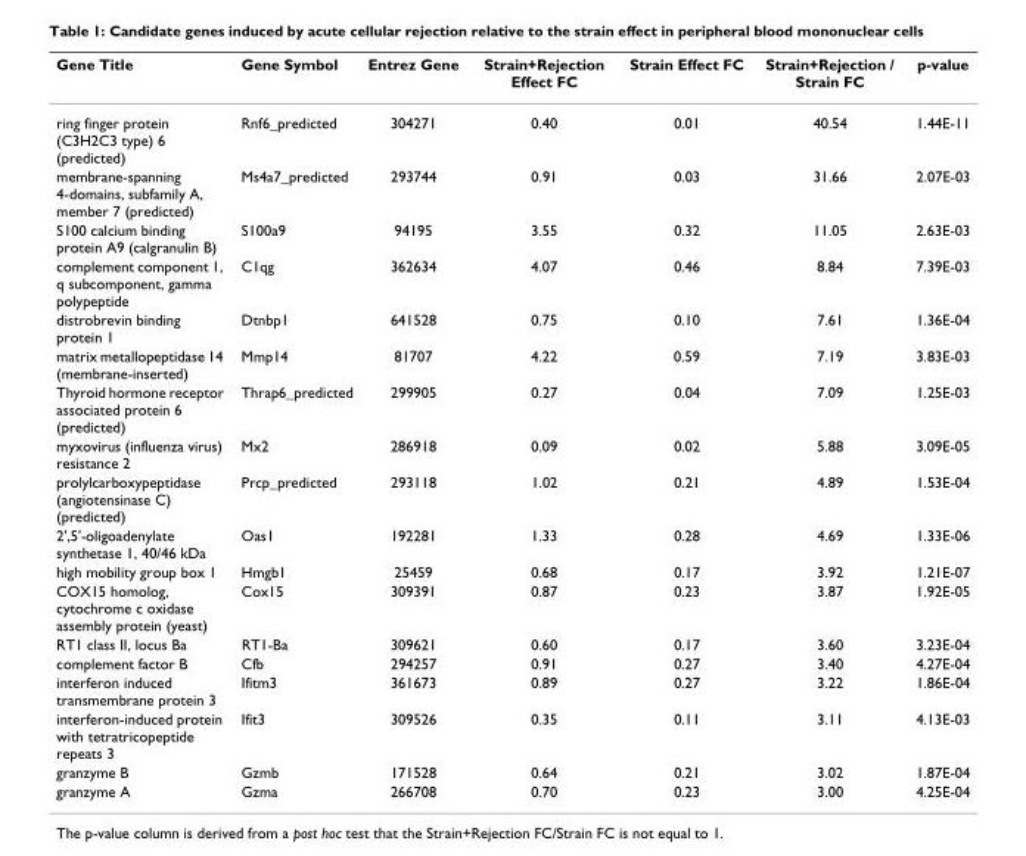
<table><thead><tr><td>Gene Title</td><td>Gene Symbol</td><td>Entrez Gene</td><td>Strain+Rejection Effect FC</td><td>Strain Effect FC</td><td>Strain+Rejection / Strain FC</td><td>p-value</td></tr></thead><tbody><tr><td>ring finger protein (C3H2C3 type) 6 (predicted)</td><td>Rnf6_predicted</td><td>304271</td><td>0.40</td><td>0.01</td><td>40.54</td><td>1.44E-11</td></tr><tr><td>membrane-spanning 4-domains, subfamily A, member 7 (predicted)</td><td>Ms4a7_predicted</td><td>293744</td><td>0.91</td><td>0.03</td><td>31.66</td><td>2.07E-03</td></tr><tr><td>S100 calcium binding protein A9 (calgranulin B)</td><td>S100a9</td><td>94195</td><td>3.55</td><td>0.32</td><td>11.05</td><td>2.63E-03</td></tr><tr><td>complement component 1, q subcomponent, gamma polypeptide</td><td>C1qg</td><td>362634</td><td>4.07</td><td>0.46</td><td>8.84</td><td>7.39E-03</td></tr><tr><td>distrobrevin binding protein 1</td><td>Dtnbp1</td><td>641528</td><td>0.75</td><td>0.10</td><td>7.61</td><td>1.36E-04</td></tr><tr><td>matrix metallopeptidase 14 (membrane-inserted)</td><td>Mmp14</td><td>81707</td><td>4.22</td><td>0.59</td><td>7.19</td><td>3.83E-03</td></tr><tr><td>Thyroid hormone receptor associated protein 6 (predicted)</td><td>Thrap6_predicted</td><td>299905</td><td>0.27</td><td>0.04</td><td>7.09</td><td>1.25E-03</td></tr><tr><td>myxovirus (influenza virus) resistance 2</td><td>Mx2</td><td>286918</td><td>0.09</td><td>0.02</td><td>5.88</td><td>3.09E-05</td></tr><tr><td>prolylcarboxypeptidase (angiotensinase C) (predicted)</td><td>Prcp_predicted</td><td>293118</td><td>1.02</td><td>0.21</td><td>4.89</td><td>1.53E-04</td></tr><tr><td>2&#x27;,5&#x27;-oligoadenylate synthetase 1, 40/46 kDa</td><td>Oas1</td><td>192281</td><td>1.33</td><td>0.28</td><td>4.69</td><td>1.33E-06</td></tr><tr><td>high mobility group box 1</td><td>Hmgb1</td><td>25459</td><td>0.68</td><td>0.17</td><td>3.92</td><td>1.21E-07</td></tr><tr><td>COX15 homolog, cytochrome c oxidase assembly protein (yeast)</td><td>Cox15</td><td>309391</td><td>0.87</td><td>0.23</td><td>3.87</td><td>1.92E-05</td></tr><tr><td>RT1 class II, locus Ba</td><td>RT1-Ba</td><td>309621</td><td>0.60</td><td>0.17</td><td>3.60</td><td>3.23E-04</td></tr><tr><td>complement factor B</td><td>Cfb</td><td>294257</td><td>0.91</td><td>0.27</td><td>3.40</td><td>4.27E-04</td></tr><tr><td>interferon induced transmembrane protein 3</td><td>Ifitm3</td><td>361673</td><td>0.89</td><td>0.27</td><td>3.22</td><td>1.86E-04</td></tr><tr><td>interferon-induced protein with tetratricopeptide repeats 3</td><td>Ifit3</td><td>309526</td><td>0.35</td><td>0.11</td><td>3.11</td><td>4.13E-03</td></tr><tr><td>granzyme B</td><td>Gzmb</td><td>171528</td><td>0.64</td><td>0.21</td><td>3.02</td><td>1.87E-04</td></tr><tr><td>granzyme A</td><td>Gzma</td><td>266708</td><td>0.70</td><td>0.23</td><td>3.00</td><td>4.25E-04</td></tr></tbody></table>